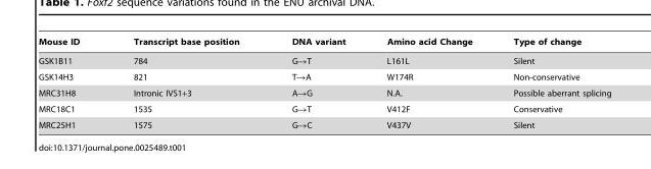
<table><thead><tr><td>Mouse ID</td><td>Transcript base position</td><td>DNA variant</td><td>Amino acid Change</td><td>Type of change</td></tr></thead><tbody><tr><td>GSK1B11</td><td>784</td><td>G→T</td><td>L161L</td><td>Silent</td></tr><tr><td>GSK14H3</td><td>821</td><td>T→A</td><td>W174R</td><td>Non-conservative</td></tr><tr><td>MRC31H8</td><td>Intronic IVS1+3</td><td>A→G</td><td>N.A.</td><td>Possible aberrant splicing</td></tr><tr><td>MRC18C1</td><td>1535</td><td>G→T</td><td>V412F</td><td>Conservative</td></tr><tr><td>MRC25H1</td><td>1575</td><td>G→C</td><td>V437V</td><td>Silent</td></tr></tbody></table>